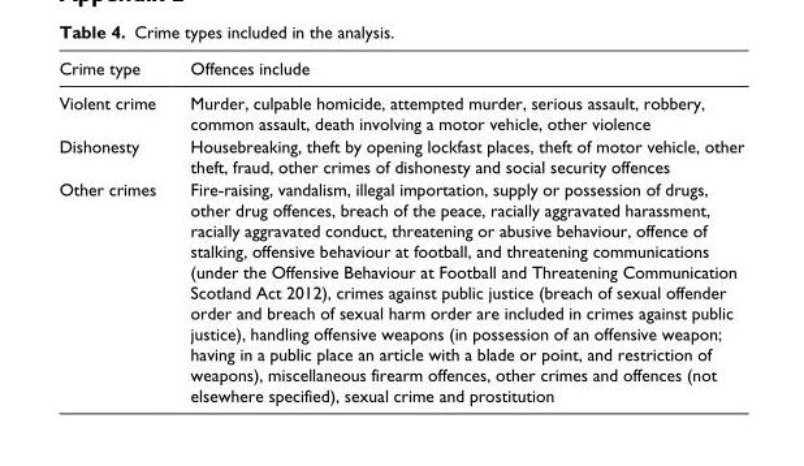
<table><thead><tr><td>Crime type</td><td>Offences include</td></tr></thead><tbody><tr><td>Violent crime</td><td>Murder, culpable homicide, attempted murder, serious assault, robbery, common assault, death involving a motor vehicle, other violence</td></tr><tr><td>Dishonesty</td><td>Housebreaking, theft by opening lockfast places, theft of motor vehicle, other theft, fraud, other crimes of dishonesty and social security offences</td></tr><tr><td>Other crimes</td><td>Fire-raising, vandalism, illegal importation, supply or possession of drugs, other drug offences, breach of the peace, racially aggravated harassment, racially aggravated conduct, threatening or abusive behaviour, offence of stalking, offensive behaviour at football, and threatening communications (under the Offensive Behaviour at Football and Threatening Communication Scotland Act 2012), crimes against public justice (breach of sexual offender order and breach of sexual harm order are included in crimes against public justice), handling offensive weapons (in possession of an offensive weapon; having in a public place an article with a blade or point, and restriction of weapons), miscellaneous firearm offences, other crimes and offences (not elsewhere specified), sexual crime and prostitution</td></tr></tbody></table>